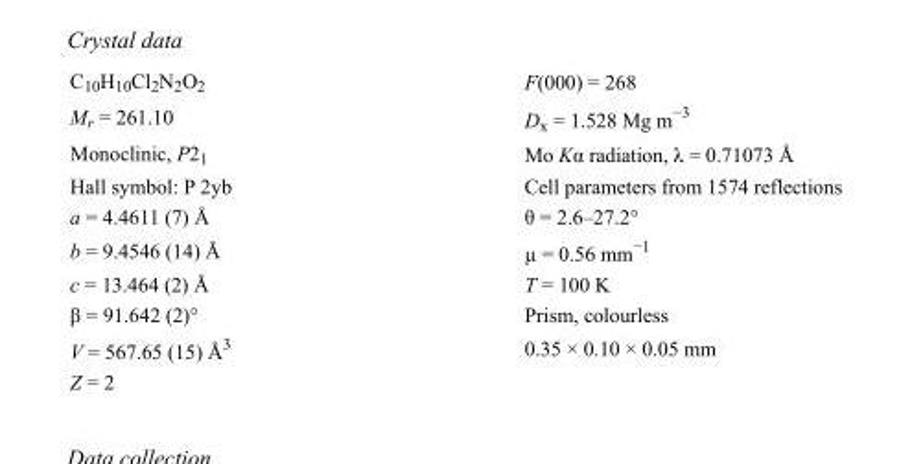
<table><tbody><tr><td>C<sub>10</sub>H<sub>10</sub>Cl<sub>2</sub>N<sub>2</sub>O<sub>2</sub></td><td>F(000) = 268</td></tr><tr><td>M<sub>r</sub> = 261.10</td><td>D<sub>x</sub> = 1.528 Mg m<sup>−3</sup></td></tr><tr><td>Monoclinic, P2<sub>1</sub></td><td>Mo Kα radiation, λ = 0.71073 Å</td></tr><tr><td>Hall symbol: P 2yb</td><td>Cell parameters from 1574 reflections</td></tr><tr><td>a = 4.4611 (7) Å</td><td>θ = 2.6–27.2°</td></tr><tr><td>b = 9.4546 (14) Å</td><td>µ = 0.56 mm<sup>−1</sup></td></tr><tr><td>c = 13.464 (2) Å</td><td>T = 100 K</td></tr><tr><td>β = 91.642 (2)°</td><td>Prism, colourless</td></tr><tr><td>V = 567.65 (15) Å<sup>3</sup></td><td>0.35 × 0.10 × 0.05 mm</td></tr><tr><td>Z = 2</td><td></td></tr></tbody></table>